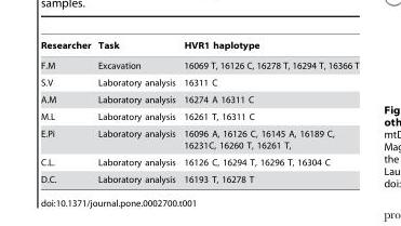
<table><thead><tr><td>Researcher</td><td>Task</td><td>HVR1 haplotype</td></tr></thead><tbody><tr><td>F.M</td><td>Excavation</td><td>16069 T, 16126 C, 16278 T, 16294 T, 16366 T</td></tr><tr><td>S.V</td><td>Laboratory analysis</td><td>16311 C</td></tr><tr><td>A.M</td><td>Laboratory analysis</td><td>16274 A 16311 C</td></tr><tr><td>M.L</td><td>Laboratory analysis</td><td>16261 T, 16311 C</td></tr><tr><td>E.Pi</td><td>Laboratory analysis</td><td>16096 A, 16126 C, 16145 A, 16189 C, 16231C, 16260 T, 16261 T,</td></tr><tr><td>C.L.</td><td>Laboratory analysis</td><td>16126 C, 16294 T, 16296 T, 16304 C</td></tr><tr><td>D.C.</td><td>Laboratory analysis</td><td>16193 T, 16278 T</td></tr></tbody></table>